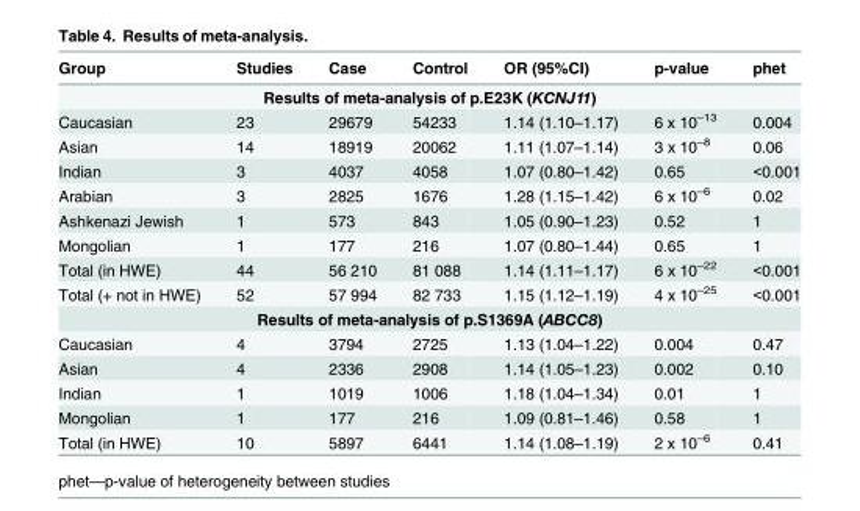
<table><thead><tr><td>Group</td><td>Studies</td><td>Case</td><td>Control</td><td>OR (95%CI)</td><td>p-value</td><td>phet</td></tr></thead><tbody><tr><td colspan="7">Results of meta-analysis of p.E23K (KCNJ11)</td></tr><tr><td>Caucasian</td><td>23</td><td>29679</td><td>54233</td><td>1.14 (1.10–1.17)</td><td>6 x 10<sup>–13</sup></td><td>0.004</td></tr><tr><td>Asian</td><td>14</td><td>18919</td><td>20062</td><td>1.11 (1.07–1.14)</td><td>3 x 10<sup>–8</sup></td><td>0.06</td></tr><tr><td>Indian</td><td>3</td><td>4037</td><td>4058</td><td>1.07 (0.80–1.42)</td><td>0.65</td><td>&lt;0.001</td></tr><tr><td>Arabian</td><td>3</td><td>2825</td><td>1676</td><td>1.28 (1.15–1.42)</td><td>6 x 10<sup>–6</sup></td><td>0.02</td></tr><tr><td>Ashkenazi Jewish</td><td>1</td><td>573</td><td>843</td><td>1.05 (0.90–1.23)</td><td>0.52</td><td>1</td></tr><tr><td>Mongolian</td><td>1</td><td>177</td><td>216</td><td>1.07 (0.80–1.44)</td><td>0.65</td><td>1</td></tr><tr><td>Total (in HWE)</td><td>44</td><td>56 210</td><td>81 088</td><td>1.14 (1.11–1.17)</td><td>6 x 10<sup>–22</sup></td><td>&lt;0.001</td></tr><tr><td>Total (+ not in HWE)</td><td>52</td><td>57 994</td><td>82 733</td><td>1.15 (1.12–1.19)</td><td>4 x 10<sup>–25</sup></td><td>&lt;0.001</td></tr><tr><td colspan="7">Results of meta-analysis of p.S1369A (ABCC8)</td></tr><tr><td>Caucasian</td><td>4</td><td>3794</td><td>2725</td><td>1.13 (1.04–1.22)</td><td>0.004</td><td>0.47</td></tr><tr><td>Asian</td><td>4</td><td>2336</td><td>2908</td><td>1.14 (1.05–1.23)</td><td>0.002</td><td>0.10</td></tr><tr><td>Indian</td><td>1</td><td>1019</td><td>1006</td><td>1.18 (1.04–1.34)</td><td>0.01</td><td>1</td></tr><tr><td>Mongolian</td><td>1</td><td>177</td><td>216</td><td>1.09 (0.81–1.46)</td><td>0.58</td><td>1</td></tr><tr><td>Total (in HWE)</td><td>10</td><td>5897</td><td>6441</td><td>1.14 (1.08–1.19)</td><td>2 x 10<sup>–6</sup></td><td>0.41</td></tr></tbody></table>